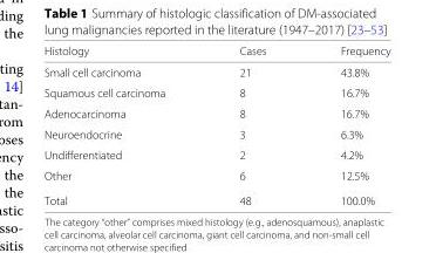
<table><thead><tr><td>Histology</td><td>Cases</td><td>Frequency</td></tr></thead><tbody><tr><td>Small cell carcinoma</td><td>21</td><td>43.8%</td></tr><tr><td>Squamous cell carcinoma</td><td>8</td><td>16.7%</td></tr><tr><td>Adenocarcinoma</td><td>8</td><td>16.7%</td></tr><tr><td>Neuroendocrine</td><td>3</td><td>6.3%</td></tr><tr><td>Undifferentiated</td><td>2</td><td>4.2%</td></tr><tr><td>Other</td><td>6</td><td>12.5%</td></tr><tr><td>Total</td><td>48</td><td>100.0%</td></tr></tbody></table>